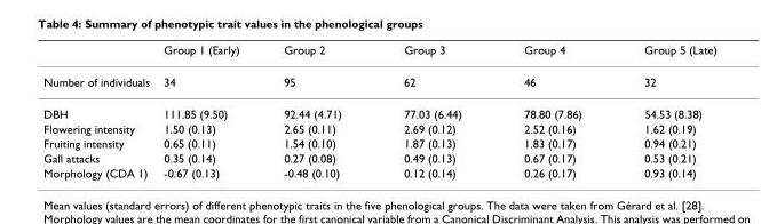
<table><thead><tr><td></td><td>Group 1 (Early)</td><td>Group 2</td><td>Group 3</td><td>Group 4</td><td>Group 5 (Late)</td></tr></thead><tbody><tr><td>Number of individuals</td><td>34</td><td>95</td><td>62</td><td>46</td><td>32</td></tr><tr><td>DBH</td><td>111.85 (9.50)</td><td>92.44 (4.71)</td><td>77.03 (6.44)</td><td>78.80 (7.86)</td><td>54.53 (8.38)</td></tr><tr><td>Flowering intensity</td><td>1.50 (0.13)</td><td>2.65 (0.11)</td><td>2.69 (0.12)</td><td>2.52 (0.16)</td><td>1.62 (0.19)</td></tr><tr><td>Fruiting intensity</td><td>0.65 (0.11)</td><td>1.54 (0.10)</td><td>1.87 (0.13)</td><td>1.83 (0.17)</td><td>0.94 (0.21)</td></tr><tr><td>Gall attacks</td><td>0.35 (0.14)</td><td>0.27 (0.08)</td><td>0.49 (0.13)</td><td>0.67 (0.17)</td><td>0.53 (0.21)</td></tr><tr><td>Morphology (CDA 1)</td><td>-0.67 (0.13)</td><td>-0.48 (0.10)</td><td>0.12 (0.14)</td><td>0.26 (0.17)</td><td>0.93 (0.14)</td></tr></tbody></table>